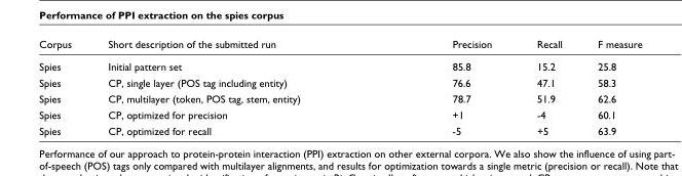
<table><thead><tr><td>Corpus</td><td>Short description of the submitted run</td><td>Precision</td><td>Recall</td><td>F measure</td></tr></thead><tbody><tr><td>Spies</td><td>Initial pattern set</td><td>85.8</td><td>15.2</td><td>25.8</td></tr><tr><td>Spies</td><td>CP, single layer (POS tag including entity)</td><td>76.6</td><td>47.1</td><td>58.3</td></tr><tr><td>Spies</td><td>CP, multilayer (token, POS tag, stem, entity)</td><td>78.7</td><td>51.9</td><td>62.6</td></tr><tr><td>Spies</td><td>CP, optimized for precision</td><td>+1</td><td>-4</td><td>60.1</td></tr><tr><td>Spies</td><td>CP, optimized for recall</td><td>-5</td><td>+5</td><td>63.9</td></tr></tbody></table>